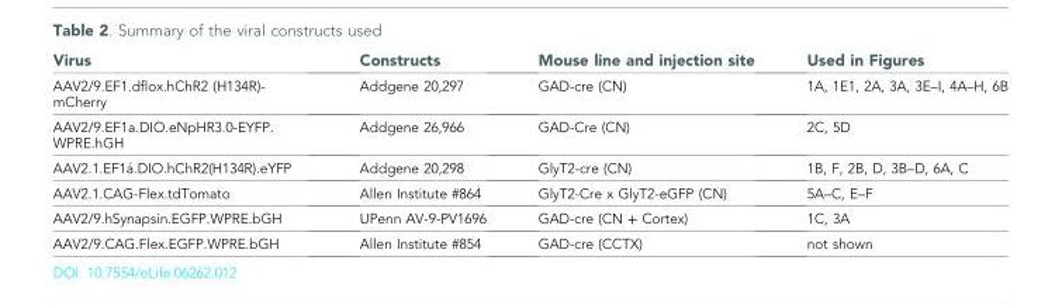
<table><thead><tr><td>Virus</td><td>Constructs</td><td>Mouse line and injection site</td><td>Used in Figures</td></tr></thead><tbody><tr><td>AAV2/9.EF1.dflox.hChR2 (H134R)- mCherry</td><td>Addgene 20,297</td><td>GAD-cre (CN)</td><td>1A, 1E1, 2A, 3A, 3E–I, 4A–H, 6B</td></tr><tr><td>AAV2/9.EF1a.DIO.eNpHR3.0-EYFP. WPRE.hGH</td><td>Addgene 26,966</td><td>GAD-Cre (CN)</td><td>2C, 5D</td></tr><tr><td>AAV2.1.EF1´a.DIO.hChR2(H134R).eYFP</td><td>Addgene 20,298</td><td>GlyT2-cre (CN)</td><td>1B, F, 2B, D, 3B–D, 6A, C</td></tr><tr><td>AAV2.1.CAG-Flex.tdTomato</td><td>Allen Institute #864</td><td>GlyT2-Cre x GlyT2-eGFP (CN)</td><td>5A–C, E–F</td></tr><tr><td>AAV2/9.hSynapsin.EGFP.WPRE.bGH</td><td>UPenn AV-9-PV1696</td><td>GAD-cre (CN + Cortex)</td><td>1C, 3A</td></tr><tr><td>AAV2/9.CAG.Flex.EGFP.WPRE.bGH</td><td>Allen Institute #854</td><td>GAD-cre (CCTX)</td><td>not shown</td></tr></tbody></table>